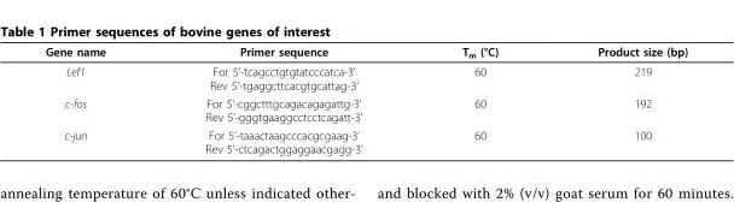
<table><thead><tr><td>Gene name</td><td>Primer sequence</td><td>T<sub>m</sub> (°C)</td><td>Product size (bp)</td></tr></thead><tbody><tr><td>Lef1</td><td>For 5’-tcagcctgtgtatcccatca-3’ Rev 5’-tgaggcttcacgtgcattag-3’</td><td>60</td><td>219</td></tr><tr><td>c-fos</td><td>For 5’-cggctttgcagacagagattg-3’ Rev 5’-gggtgaaggcctcctcagatt-3’</td><td>60</td><td>192</td></tr><tr><td>c-jun</td><td>For 5’-taaactaagcccacgcgaag-3’ Rev 5’-ctcagactggaggaacgagg-3’</td><td>60</td><td>100</td></tr></tbody></table>